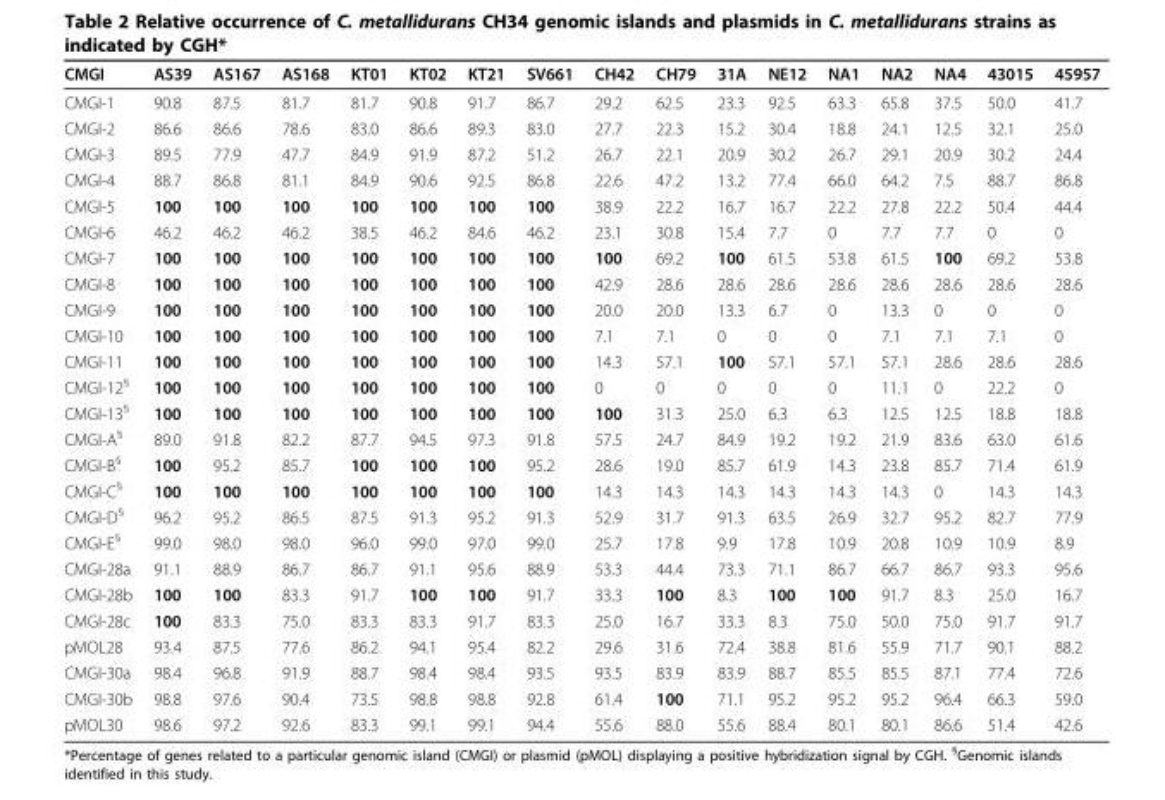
<table><thead><tr><td>CMGI</td><td>AS39</td><td>AS167</td><td>AS168</td><td>KT01</td><td>KT02</td><td>KT21</td><td>SV661</td><td>CH42</td><td>CH79</td><td>31A</td><td>NE12</td><td>NA1</td><td>NA2</td><td>NA4</td><td>43015</td><td>45957</td></tr></thead><tbody><tr><td>CMGI-1</td><td>90.8</td><td>87.5</td><td>81.7</td><td>81.7</td><td>90.8</td><td>91.7</td><td>86.7</td><td>29.2</td><td>62.5</td><td>23.3</td><td>92.5</td><td>63.3</td><td>65.8</td><td>37.5</td><td>50.0</td><td>41.7</td></tr><tr><td>CMGI-2</td><td>86.6</td><td>86.6</td><td>78.6</td><td>83.0</td><td>86.6</td><td>89.3</td><td>83.0</td><td>27.7</td><td>22.3</td><td>15.2</td><td>30.4</td><td>18.8</td><td>24.1</td><td>12.5</td><td>32.1</td><td>25.0</td></tr><tr><td>CMGI-3</td><td>89.5</td><td>77.9</td><td>47.7</td><td>84.9</td><td>91.9</td><td>87.2</td><td>51.2</td><td>26.7</td><td>22.1</td><td>20.9</td><td>30.2</td><td>26.7</td><td>29.1</td><td>20.9</td><td>30.2</td><td>24.4</td></tr><tr><td>CMGI-4</td><td>88.7</td><td>86.8</td><td>81.1</td><td>84.9</td><td>90.6</td><td>92.5</td><td>86.8</td><td>22.6</td><td>47.2</td><td>13.2</td><td>77.4</td><td>66.0</td><td>64.2</td><td>7.5</td><td>88.7</td><td>86.8</td></tr><tr><td>CMGI-5</td><td>100</td><td>100</td><td>100</td><td>100</td><td>100</td><td>100</td><td>100</td><td>38.9</td><td>22.2</td><td>16.7</td><td>16.7</td><td>22.2</td><td>27.8</td><td>22.2</td><td>50.4</td><td>44.4</td></tr><tr><td>CMGI-6</td><td>46.2</td><td>46.2</td><td>46.2</td><td>38.5</td><td>46.2</td><td>84.6</td><td>46.2</td><td>23.1</td><td>30.8</td><td>15.4</td><td>7.7</td><td>0</td><td>7.7</td><td>7.7</td><td>0</td><td>0</td></tr><tr><td>CMGI-7</td><td>100</td><td>100</td><td>100</td><td>100</td><td>100</td><td>100</td><td>100</td><td>100</td><td>69.2</td><td>100</td><td>61.5</td><td>53.8</td><td>61.5</td><td>100</td><td>69.2</td><td>53.8</td></tr><tr><td>CMGI-8</td><td>100</td><td>100</td><td>100</td><td>100</td><td>100</td><td>100</td><td>100</td><td>42.9</td><td>28.6</td><td>28.6</td><td>28.6</td><td>28.6</td><td>28.6</td><td>28.6</td><td>28.6</td><td>28.6</td></tr><tr><td>CMGI-9</td><td>100</td><td>100</td><td>100</td><td>100</td><td>100</td><td>100</td><td>100</td><td>20.0</td><td>20.0</td><td>13.3</td><td>6.7</td><td>0</td><td>13.3</td><td>0</td><td>0</td><td>0</td></tr><tr><td>CMGI-10</td><td>100</td><td>100</td><td>100</td><td>100</td><td>100</td><td>100</td><td>100</td><td>7.1</td><td>7.1</td><td>0</td><td>0</td><td>0</td><td>7.1</td><td>7.1</td><td>7.1</td><td>0</td></tr><tr><td>CMGI-11</td><td>100</td><td>100</td><td>100</td><td>100</td><td>100</td><td>100</td><td>100</td><td>14.3</td><td>57.1</td><td>100</td><td>57.1</td><td>57.1</td><td>57.1</td><td>28.6</td><td>28.6</td><td>28.6</td></tr><tr><td>CMGI-12<sup>§</sup></td><td>100</td><td>100</td><td>100</td><td>100</td><td>100</td><td>100</td><td>100</td><td>0</td><td>0</td><td>0</td><td>0</td><td>0</td><td>11.1</td><td>0</td><td>22.2</td><td>0</td></tr><tr><td>CMGI-13<sup>§</sup></td><td>100</td><td>100</td><td>100</td><td>100</td><td>100</td><td>100</td><td>100</td><td>100</td><td>31.3</td><td>25.0</td><td>6.3</td><td>6.3</td><td>12.5</td><td>12.5</td><td>18.8</td><td>18.8</td></tr><tr><td>CMGI-A<sup>§</sup></td><td>89.0</td><td>91.8</td><td>82.2</td><td>87.7</td><td>94.5</td><td>97.3</td><td>91.8</td><td>57.5</td><td>24.7</td><td>84.9</td><td>19.2</td><td>19.2</td><td>21.9</td><td>83.6</td><td>63.0</td><td>61.6</td></tr><tr><td>CMGI-B<sup>§</sup></td><td>100</td><td>95.2</td><td>85.7</td><td>100</td><td>100</td><td>100</td><td>95.2</td><td>28.6</td><td>19.0</td><td>85.7</td><td>61.9</td><td>14.3</td><td>23.8</td><td>85.7</td><td>71.4</td><td>61.9</td></tr><tr><td>CMGI-C<sup>§</sup></td><td>100</td><td>100</td><td>100</td><td>100</td><td>100</td><td>100</td><td>100</td><td>14.3</td><td>14.3</td><td>14.3</td><td>14.3</td><td>14.3</td><td>14.3</td><td>0</td><td>14.3</td><td>14.3</td></tr><tr><td>CMGI-D<sup>§</sup></td><td>96.2</td><td>95.2</td><td>86.5</td><td>87.5</td><td>91.3</td><td>95.2</td><td>91.3</td><td>52.9</td><td>31.7</td><td>91.3</td><td>63.5</td><td>26.9</td><td>32.7</td><td>95.2</td><td>82.7</td><td>77.9</td></tr><tr><td>CMGI-E<sup>§</sup></td><td>99.0</td><td>98.0</td><td>98.0</td><td>96.0</td><td>99.0</td><td>97.0</td><td>99.0</td><td>25.7</td><td>17.8</td><td>9.9</td><td>17.8</td><td>10.9</td><td>20.8</td><td>10.9</td><td>10.9</td><td>8.9</td></tr><tr><td>CMGI-28a</td><td>91.1</td><td>88.9</td><td>86.7</td><td>86.7</td><td>91.1</td><td>95.6</td><td>88.9</td><td>53.3</td><td>44.4</td><td>73.3</td><td>71.1</td><td>86.7</td><td>66.7</td><td>86.7</td><td>93.3</td><td>95.6</td></tr><tr><td>CMGI-28b</td><td>100</td><td>100</td><td>83.3</td><td>91.7</td><td>100</td><td>100</td><td>91.7</td><td>33.3</td><td>100</td><td>8.3</td><td>100</td><td>100</td><td>91.7</td><td>8.3</td><td>25.0</td><td>16.7</td></tr><tr><td>CMGI-28c</td><td>100</td><td>83.3</td><td>75.0</td><td>83.3</td><td>83.3</td><td>91.7</td><td>83.3</td><td>25.0</td><td>16.7</td><td>33.3</td><td>8.3</td><td>75.0</td><td>50.0</td><td>75.0</td><td>91.7</td><td>91.7</td></tr><tr><td>pMOL28</td><td>93.4</td><td>87.5</td><td>77.6</td><td>86.2</td><td>94.1</td><td>95.4</td><td>82.2</td><td>29.6</td><td>31.6</td><td>72.4</td><td>38.8</td><td>81.6</td><td>55.9</td><td>71.7</td><td>90.1</td><td>88.2</td></tr><tr><td>CMGI-30a</td><td>98.4</td><td>96.8</td><td>91.9</td><td>88.7</td><td>98.4</td><td>98.4</td><td>93.5</td><td>93.5</td><td>83.9</td><td>83.9</td><td>88.7</td><td>85.5</td><td>85.5</td><td>87.1</td><td>77.4</td><td>72.6</td></tr><tr><td>CMGI-30b</td><td>98.8</td><td>97.6</td><td>90.4</td><td>73.5</td><td>98.8</td><td>98.8</td><td>92.8</td><td>61.4</td><td>100</td><td>71.1</td><td>95.2</td><td>95.2</td><td>95.2</td><td>96.4</td><td>66.3</td><td>59.0</td></tr><tr><td>pMOL30</td><td>98.6</td><td>97.2</td><td>92.6</td><td>83.3</td><td>99.1</td><td>99.1</td><td>94.4</td><td>55.6</td><td>88.0</td><td>55.6</td><td>88.4</td><td>80.1</td><td>80.1</td><td>86.6</td><td>51.4</td><td>42.6</td></tr></tbody></table>